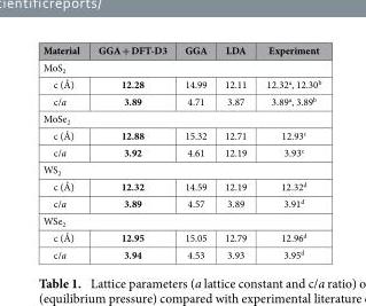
<table><thead><tr><td>Material</td><td>GGA + DFT-D3</td><td>GGA</td><td>LDA</td><td>Experiment</td></tr></thead><tbody><tr><td colspan="5">MoS<sub>2</sub></td></tr><tr><td>c (Å)</td><td>12.28</td><td>14.99</td><td>12.11</td><td>12.32<sup>a</sup>, 12.30<sup>b</sup></td></tr><tr><td>c/a</td><td>3.89</td><td>4.71</td><td>3.87</td><td>3.89<sup>a</sup>, 3.89<sup>b</sup></td></tr><tr><td colspan="5">MoSe<sub>2</sub></td></tr><tr><td>c (Å)</td><td>12.88</td><td>15.32</td><td>12.71</td><td>12.93<sup>c</sup></td></tr><tr><td>c/a</td><td>3.92</td><td>4.61</td><td>12.19</td><td>3.93<sup>c</sup></td></tr><tr><td colspan="5">WS<sub>2</sub></td></tr><tr><td>c (Å)</td><td>12.32</td><td>14.59</td><td>12.19</td><td>12.32<sup>d</sup></td></tr><tr><td>c/a</td><td>3.89</td><td>4.57</td><td>3.89</td><td>3.91<sup>d</sup></td></tr><tr><td colspan="5">WSe<sub>2</sub></td></tr><tr><td>c (Å)</td><td>12.95</td><td>15.05</td><td>12.79</td><td>12.96<sup>d</sup></td></tr><tr><td>c/a</td><td>3.94</td><td>4.53</td><td>3.93</td><td>3.95<sup>d</sup></td></tr></tbody></table>